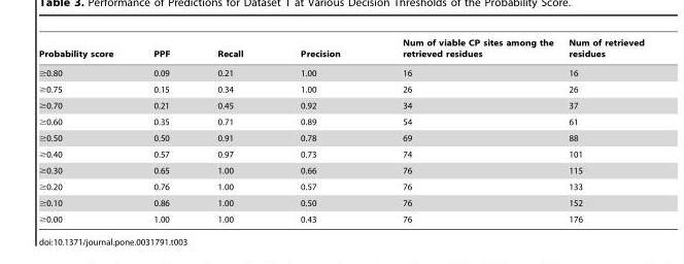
<table><thead><tr><td>Probability score</td><td>PPF</td><td>Recall</td><td>Precision</td><td>Num of viable CP sites among the retrieved residues</td><td>Num of retrieved residues</td></tr></thead><tbody><tr><td>≥0.80</td><td>0.09</td><td>0.21</td><td>1.00</td><td>16</td><td>16</td></tr><tr><td>≥0.75</td><td>0.15</td><td>0.34</td><td>1.00</td><td>26</td><td>26</td></tr><tr><td>≥0.70</td><td>0.21</td><td>0.45</td><td>0.92</td><td>34</td><td>37</td></tr><tr><td>≥0.60</td><td>0.35</td><td>0.71</td><td>0.89</td><td>54</td><td>61</td></tr><tr><td>≥0.50</td><td>0.50</td><td>0.91</td><td>0.78</td><td>69</td><td>88</td></tr><tr><td>≥0.40</td><td>0.57</td><td>0.97</td><td>0.73</td><td>74</td><td>101</td></tr><tr><td>≥0.30</td><td>0.65</td><td>1.00</td><td>0.66</td><td>76</td><td>115</td></tr><tr><td>≥0.20</td><td>0.76</td><td>1.00</td><td>0.57</td><td>76</td><td>133</td></tr><tr><td>≥0.10</td><td>0.86</td><td>1.00</td><td>0.50</td><td>76</td><td>152</td></tr><tr><td>≥0.00</td><td>1.00</td><td>1.00</td><td>0.43</td><td>76</td><td>176</td></tr></tbody></table>